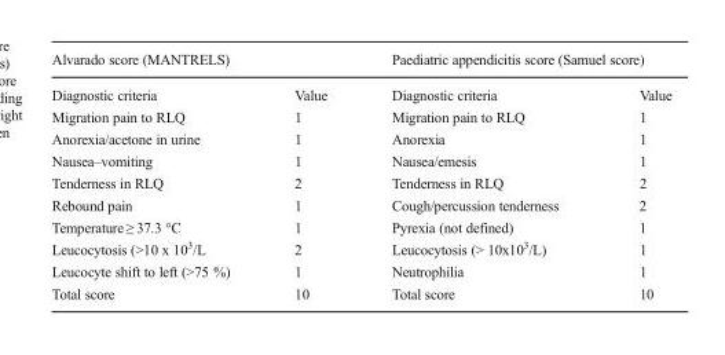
<table><thead><tr><td colspan="2">Alvarado score (MANTRELS)</td><td colspan="2">Paediatric appendicitis score (Samuel score)</td></tr><tr><td>Diagnostic criteria</td><td>Value</td><td>Diagnostic criteria</td><td>Value</td></tr></thead><tbody><tr><td>Migration pain to RLQ</td><td>1</td><td>Migration pain to RLQ</td><td>1</td></tr><tr><td>Anorexia/acetone in urine</td><td>1</td><td>Anorexia</td><td>1</td></tr><tr><td>Nausea–vomiting</td><td>1</td><td>Nausea/emesis</td><td>1</td></tr><tr><td>Tenderness in RLQ</td><td>2</td><td>Tenderness in RLQ</td><td>2</td></tr><tr><td>Rebound pain</td><td>1</td><td>Cough/percussion tenderness</td><td>2</td></tr><tr><td>Temperature ≥ 37.3 °C</td><td>1</td><td>Pyrexia (not defined)</td><td>1</td></tr><tr><td>Leucocytosis (&gt;10 x 10<sup>3</sup>/L</td><td>2</td><td>Leucocytosis (&gt; 10x10<sup>3</sup>/L)</td><td>1</td></tr><tr><td>Leucocyte shift to left (&gt;75 %)</td><td>1</td><td>Neutrophilia</td><td>1</td></tr><tr><td>Total score</td><td>10</td><td>Total score</td><td>10</td></tr></tbody></table>